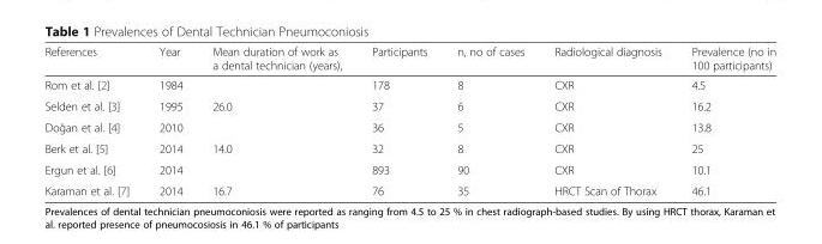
<table><thead><tr><td>References</td><td>Year</td><td>Mean duration of work as a dental technician (years),</td><td>Participants</td><td>n, no of cases</td><td>Radiological diagnosis</td><td>Prevalence (no in 100 participants)</td></tr></thead><tbody><tr><td>Rom et al. [2]</td><td>1984</td><td></td><td>178</td><td>8</td><td>CXR</td><td>4.5</td></tr><tr><td>Selden et al. [3]</td><td>1995</td><td>26.0</td><td>37</td><td>6</td><td>CXR</td><td>16.2</td></tr><tr><td>Doğan et al. [4]</td><td>2010</td><td></td><td>36</td><td>5</td><td>CXR</td><td>13.8</td></tr><tr><td>Berk et al. [5]</td><td>2014</td><td>14.0</td><td>32</td><td>8</td><td>CXR</td><td>25</td></tr><tr><td>Ergun et al. [6]</td><td>2014</td><td></td><td>893</td><td>90</td><td>CXR</td><td>10.1</td></tr><tr><td>Karaman et al. [7]</td><td>2014</td><td>16.7</td><td>76</td><td>35</td><td>HRCT Scan of Thorax</td><td>46.1</td></tr></tbody></table>